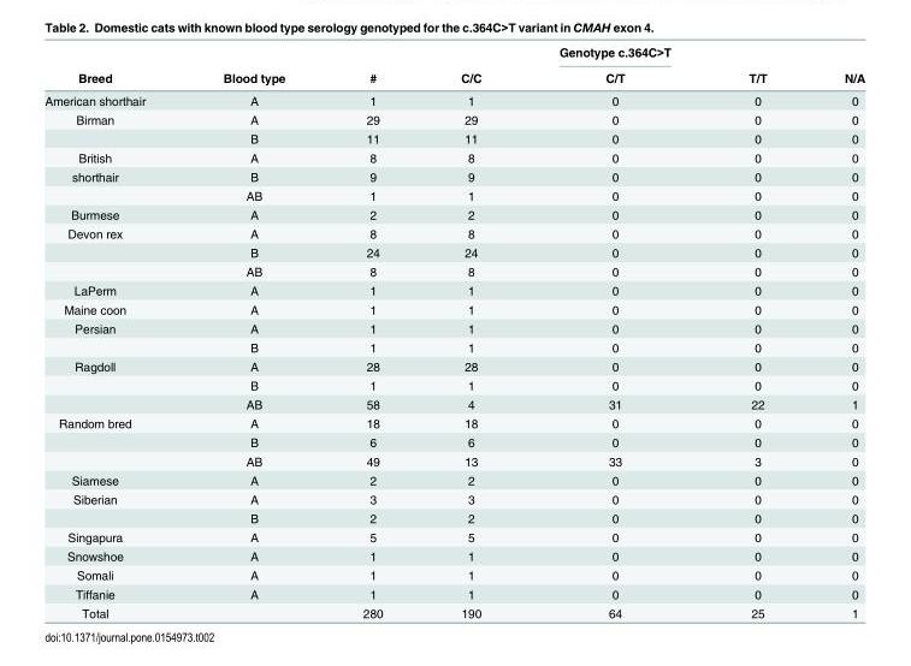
<table><thead><tr><td rowspan="2">Breed</td><td rowspan="2">Blood type</td><td rowspan="2">#</td><td rowspan="2">C/C</td><td rowspan="2">Genotype c.364C&gt;T C/T</td><td rowspan="2">T/T</td><td rowspan="2">N/A</td></tr><tr></tr></thead><tbody><tr><td>American shorthair</td><td>A</td><td>1</td><td>1</td><td>0</td><td>0</td><td>0</td></tr><tr><td rowspan="2">Birman</td><td>A</td><td>29</td><td>29</td><td>0</td><td>0</td><td>0</td></tr><tr><td>B</td><td>11</td><td>11</td><td>0</td><td>0</td><td>0</td></tr><tr><td>British</td><td>A</td><td>8</td><td>8</td><td>0</td><td>0</td><td>0</td></tr><tr><td rowspan="2">shorthair</td><td>B</td><td>9</td><td>9</td><td>0</td><td>0</td><td>0</td></tr><tr><td>AB</td><td>1</td><td>1</td><td>0</td><td>0</td><td>0</td></tr><tr><td>Burmese</td><td>A</td><td>2</td><td>2</td><td>0</td><td>0</td><td>0</td></tr><tr><td rowspan="3">Devon rex</td><td>A</td><td>8</td><td>8</td><td>0</td><td>0</td><td>0</td></tr><tr><td>B</td><td>24</td><td>24</td><td>0</td><td>0</td><td>0</td></tr><tr><td>AB</td><td>8</td><td>8</td><td>0</td><td>0</td><td>0</td></tr><tr><td>LaPerm</td><td>A</td><td>1</td><td>1</td><td>0</td><td>0</td><td>0</td></tr><tr><td>Maine coon</td><td>A</td><td>1</td><td>1</td><td>0</td><td>0</td><td>0</td></tr><tr><td rowspan="2">Persian</td><td>A</td><td>1</td><td>1</td><td>0</td><td>0</td><td>0</td></tr><tr><td>B</td><td>1</td><td>1</td><td>0</td><td>0</td><td>0</td></tr><tr><td rowspan="3">Ragdoll</td><td>A</td><td>28</td><td>28</td><td>0</td><td>0</td><td>0</td></tr><tr><td>B</td><td>1</td><td>1</td><td>0</td><td>0</td><td>0</td></tr><tr><td>AB</td><td>58</td><td>4</td><td>31</td><td>22</td><td>1</td></tr><tr><td rowspan="3">Random bred</td><td>A</td><td>18</td><td>18</td><td>0</td><td>0</td><td>0</td></tr><tr><td>B</td><td>6</td><td>6</td><td>0</td><td>0</td><td>0</td></tr><tr><td>AB</td><td>49</td><td>13</td><td>33</td><td>3</td><td>0</td></tr><tr><td>Siamese</td><td>A</td><td>2</td><td>2</td><td>0</td><td>0</td><td>0</td></tr><tr><td rowspan="2">Siberian</td><td>A</td><td>3</td><td>3</td><td>0</td><td>0</td><td>0</td></tr><tr><td>B</td><td>2</td><td>2</td><td>0</td><td>0</td><td>0</td></tr><tr><td>Singapura</td><td>A</td><td>5</td><td>5</td><td>0</td><td>0</td><td>0</td></tr><tr><td>Snowshoe</td><td>A</td><td>1</td><td>1</td><td>0</td><td>0</td><td>0</td></tr><tr><td>Somali</td><td>A</td><td>1</td><td>1</td><td>0</td><td>0</td><td>0</td></tr><tr><td>Tiffanie</td><td>A</td><td>1</td><td>1</td><td>0</td><td>0</td><td>0</td></tr><tr><td>Total</td><td></td><td>280</td><td>190</td><td>64</td><td>25</td><td>1</td></tr></tbody></table>